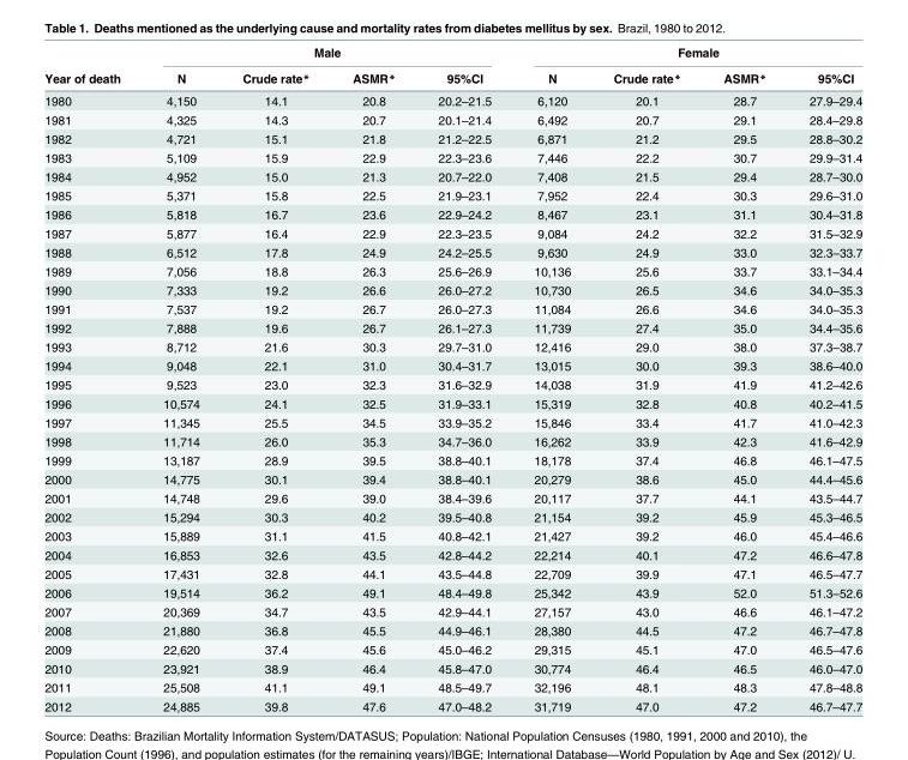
<table><thead><tr><td rowspan="2">Year of death</td><td colspan="4">Male</td><td colspan="4">Female</td></tr><tr><td>N</td><td>Crude rate*</td><td>ASMR*</td><td>95%CI</td><td>N</td><td>Crude rate*</td><td>ASMR*</td><td>95%CI</td></tr></thead><tbody><tr><td>1980</td><td>4,150</td><td>14.1</td><td>20.8</td><td>20.2–21.5</td><td>6,120</td><td>20.1</td><td>28.7</td><td>27.9–29.4</td></tr><tr><td>1981</td><td>4,325</td><td>14.3</td><td>20.7</td><td>20.1–21.4</td><td>6,492</td><td>20.7</td><td>29.1</td><td>28.4–29.8</td></tr><tr><td>1982</td><td>4,721</td><td>15.1</td><td>21.8</td><td>21.2–22.5</td><td>6,871</td><td>21.2</td><td>29.5</td><td>28.8–30.2</td></tr><tr><td>1983</td><td>5,109</td><td>15.9</td><td>22.9</td><td>22.3–23.6</td><td>7,446</td><td>22.2</td><td>30.7</td><td>29.9–31.4</td></tr><tr><td>1984</td><td>4,952</td><td>15.0</td><td>21.3</td><td>20.7–22.0</td><td>7,408</td><td>21.5</td><td>29.4</td><td>28.7–30.0</td></tr><tr><td>1985</td><td>5,371</td><td>15.8</td><td>22.5</td><td>21.9–23.1</td><td>7,952</td><td>22.4</td><td>30.3</td><td>29.6–31.0</td></tr><tr><td>1986</td><td>5,818</td><td>16.7</td><td>23.6</td><td>22.9–24.2</td><td>8,467</td><td>23.1</td><td>31.1</td><td>30.4–31.8</td></tr><tr><td>1987</td><td>5,877</td><td>16.4</td><td>22.9</td><td>22.3–23.5</td><td>9,084</td><td>24.2</td><td>32.2</td><td>31.5–32.9</td></tr><tr><td>1988</td><td>6,512</td><td>17.8</td><td>24.9</td><td>24.2–25.5</td><td>9,630</td><td>24.9</td><td>33.0</td><td>32.3–33.7</td></tr><tr><td>1989</td><td>7,056</td><td>18.8</td><td>26.3</td><td>25.6–26.9</td><td>10,136</td><td>25.6</td><td>33.7</td><td>33.1–34.4</td></tr><tr><td>1990</td><td>7,333</td><td>19.2</td><td>26.6</td><td>26.0–27.2</td><td>10,730</td><td>26.5</td><td>34.6</td><td>34.0–35.3</td></tr><tr><td>1991</td><td>7,537</td><td>19.2</td><td>26.7</td><td>26.0–27.3</td><td>11,084</td><td>26.6</td><td>34.6</td><td>34.0–35.3</td></tr><tr><td>1992</td><td>7,888</td><td>19.6</td><td>26.7</td><td>26.1–27.3</td><td>11,739</td><td>27.4</td><td>35.0</td><td>34.4–35.6</td></tr><tr><td>1993</td><td>8,712</td><td>21.6</td><td>30.3</td><td>29.7–31.0</td><td>12,416</td><td>29.0</td><td>38.0</td><td>37.3–38.7</td></tr><tr><td>1994</td><td>9,048</td><td>22.1</td><td>31.0</td><td>30.4–31.7</td><td>13,015</td><td>30.0</td><td>39.3</td><td>38.6–40.0</td></tr><tr><td>1995</td><td>9,523</td><td>23.0</td><td>32.3</td><td>31.6–32.9</td><td>14,038</td><td>31.9</td><td>41.9</td><td>41.2–42.6</td></tr><tr><td>1996</td><td>10,574</td><td>24.1</td><td>32.5</td><td>31.9–33.1</td><td>15,319</td><td>32.8</td><td>40.8</td><td>40.2–41.5</td></tr><tr><td>1997</td><td>11,345</td><td>25.5</td><td>34.5</td><td>33.9–35.2</td><td>15,846</td><td>33.4</td><td>41.7</td><td>41.0–42.3</td></tr><tr><td>1998</td><td>11,714</td><td>26.0</td><td>35.3</td><td>34.7–36.0</td><td>16,262</td><td>33.9</td><td>42.3</td><td>41.6–42.9</td></tr><tr><td>1999</td><td>13,187</td><td>28.9</td><td>39.5</td><td>38.8–40.1</td><td>18,178</td><td>37.4</td><td>46.8</td><td>46.1–47.5</td></tr><tr><td>2000</td><td>14,775</td><td>30.1</td><td>39.4</td><td>38.8–40.1</td><td>20,279</td><td>38.6</td><td>45.0</td><td>44.4–45.6</td></tr><tr><td>2001</td><td>14,748</td><td>29.6</td><td>39.0</td><td>38.4–39.6</td><td>20,117</td><td>37.7</td><td>44.1</td><td>43.5–44.7</td></tr><tr><td>2002</td><td>15,294</td><td>30.3</td><td>40.2</td><td>39.5–40.8</td><td>21,154</td><td>39.2</td><td>45.9</td><td>45.3–46.5</td></tr><tr><td>2003</td><td>15,889</td><td>31.1</td><td>41.5</td><td>40.8–42.1</td><td>21,427</td><td>39.2</td><td>46.0</td><td>45.4–46.6</td></tr><tr><td>2004</td><td>16,853</td><td>32.6</td><td>43.5</td><td>42.8–44.2</td><td>22,214</td><td>40.1</td><td>47.2</td><td>46.6–47.8</td></tr><tr><td>2005</td><td>17,431</td><td>32.8</td><td>44.1</td><td>43.5–44.8</td><td>22,709</td><td>39.9</td><td>47.1</td><td>46.5–47.7</td></tr><tr><td>2006</td><td>19,514</td><td>36.2</td><td>49.1</td><td>48.4–49.8</td><td>25,342</td><td>43.9</td><td>52.0</td><td>51.3–52.6</td></tr><tr><td>2007</td><td>20,369</td><td>34.7</td><td>43.5</td><td>42.9–44.1</td><td>27,157</td><td>43.0</td><td>46.6</td><td>46.1–47.2</td></tr><tr><td>2008</td><td>21,880</td><td>36.8</td><td>45.5</td><td>44.9–46.1</td><td>28,380</td><td>44.5</td><td>47.2</td><td>46.7–47.8</td></tr><tr><td>2009</td><td>22,620</td><td>37.4</td><td>45.6</td><td>45.0–46.2</td><td>29,315</td><td>45.1</td><td>47.0</td><td>46.5–47.6</td></tr><tr><td>2010</td><td>23,921</td><td>38.9</td><td>46.4</td><td>45.8–47.0</td><td>30,774</td><td>46.4</td><td>46.5</td><td>46.0–47.0</td></tr><tr><td>2011</td><td>25,508</td><td>41.1</td><td>49.1</td><td>48.5–49.7</td><td>32,196</td><td>48.1</td><td>48.3</td><td>47.8–48.8</td></tr><tr><td>2012</td><td>24,885</td><td>39.8</td><td>47.6</td><td>47.0–48.2</td><td>31,719</td><td>47.0</td><td>47.2</td><td>46.7–47.7</td></tr></tbody></table>